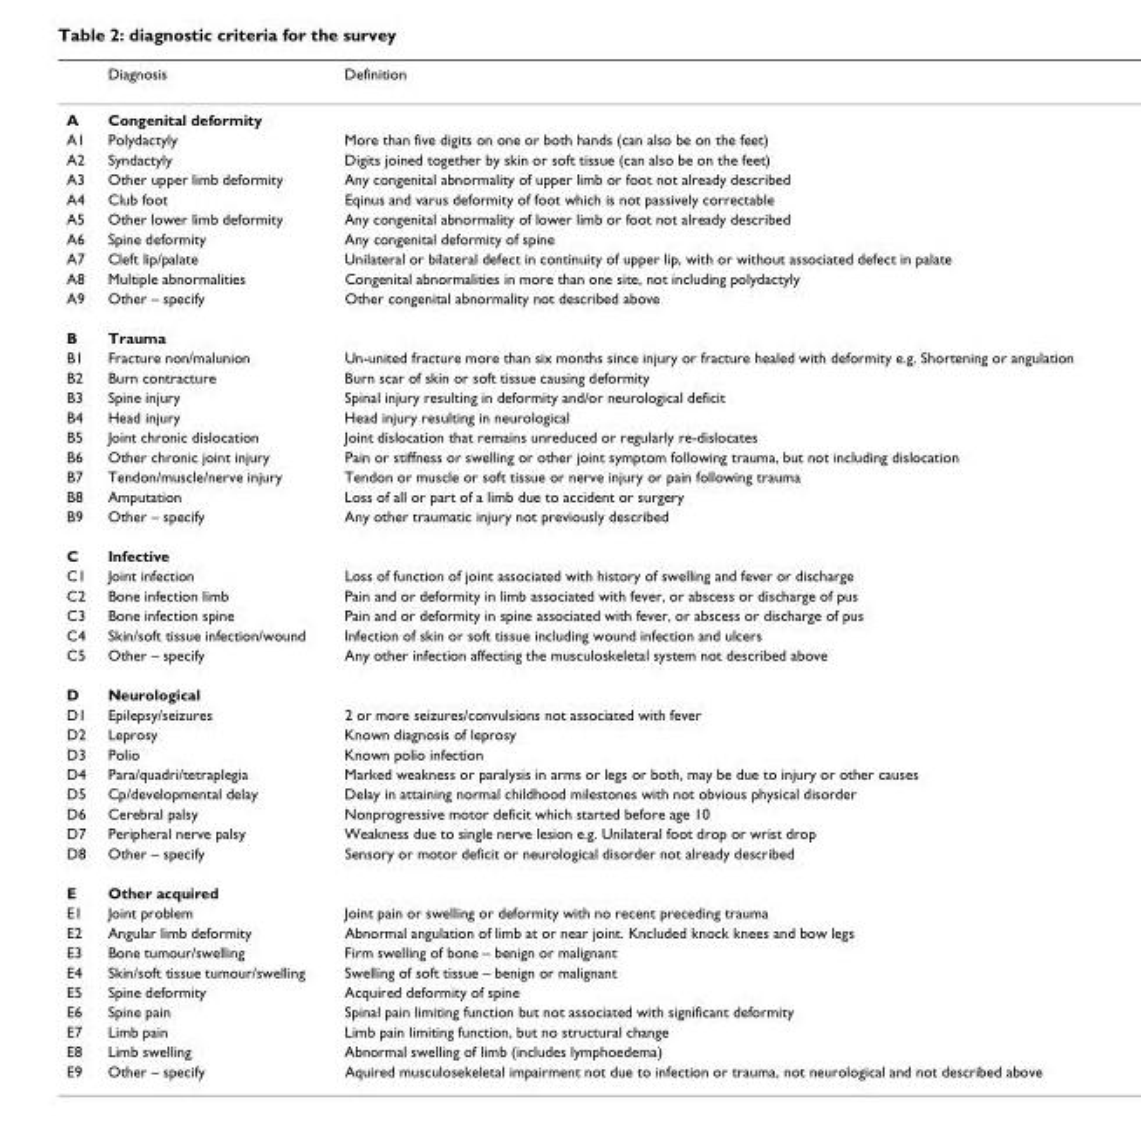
<table><thead><tr><td></td><td>Diagnosis</td><td>Definition</td></tr></thead><tbody><tr><td>A</td><td>Congenital deformity</td><td></td></tr><tr><td>A1</td><td>Polydactyly</td><td>More than five digits on one or both hands (can also be on the feet)</td></tr><tr><td>A2</td><td>Syndactyly</td><td>Digits joined together by skin or soft tissue (can also be on the feet)</td></tr><tr><td>A3</td><td>Other upper limb deformity</td><td>Any congenital abnormality of upper limb or foot not already described</td></tr><tr><td>A4</td><td>Club foot</td><td>Eqinus and varus deformity of foot which is not passively correctable</td></tr><tr><td>A5</td><td>Other lower limb deformity</td><td>Any congenital abnormality of lower limb or foot not already described</td></tr><tr><td>A6</td><td>Spine deformity</td><td>Any congenital deformity of spine</td></tr><tr><td>A7</td><td>Cleft lip/palate</td><td>Unilateral or bilateral defect in continuity of upper lip, with or without associated defect in palate</td></tr><tr><td>A8</td><td>Multiple abnormalities</td><td>Congenital abnormalities in more than one site, not including polydactyly</td></tr><tr><td>A9</td><td>Other – specify</td><td>Other congenital abnormality not described above</td></tr><tr><td>B</td><td>Trauma</td><td></td></tr><tr><td>B1</td><td>Fracture non/malunion</td><td>Un-united fracture more than six months since injury or fracture healed with deformity e.g. Shortening or angulation</td></tr><tr><td>B2</td><td>Burn contracture</td><td>Burn scar of skin or soft tissue causing deformity</td></tr><tr><td>B3</td><td>Spine injury</td><td>Spinal injury resulting in deformity and/or neurological deficit</td></tr><tr><td>B4</td><td>Head injury</td><td>Head injury resulting in neurological</td></tr><tr><td>B5</td><td>Joint chronic dislocation</td><td>Joint dislocation that remains unreduced or regularly re-dislocates</td></tr><tr><td>B6</td><td>Other chronic joint injury</td><td>Pain or stiffness or swelling or other joint symptom following trauma, but not including dislocation</td></tr><tr><td>B7</td><td>Tendon/muscle/nerve injury</td><td>Tendon or muscle or soft tissue or nerve injury or pain following trauma</td></tr><tr><td>B8</td><td>Amputation</td><td>Loss of all or part of a limb due to accident or surgery</td></tr><tr><td>B9</td><td>Other – specify</td><td>Any other traumatic injury not previously described</td></tr><tr><td>C</td><td>Infective</td><td></td></tr><tr><td>C1</td><td>Joint infection</td><td>Loss of function of joint associated with history of swelling and fever or discharge</td></tr><tr><td>C2</td><td>Bone infection limb</td><td>Pain and or deformity in limb associated with fever, or abscess or discharge of pus</td></tr><tr><td>C3</td><td>Bone infection spine</td><td>Pain and or deformity in spine associated with fever, or abscess or discharge of pus</td></tr><tr><td>C4</td><td>Skin/soft tissue infection/wound</td><td>Infection of skin or soft tissue including wound infection and ulcers</td></tr><tr><td>C5</td><td>Other – specify</td><td>Any other infection affecting the musculoskeletal system not described above</td></tr><tr><td>D</td><td>Neurological</td><td></td></tr><tr><td>D1</td><td>Epilepsy/seizures</td><td>2 or more seizures/convulsions not associated with fever</td></tr><tr><td>D2</td><td>Leprosy</td><td>Known diagnosis of leprosy</td></tr><tr><td>D3</td><td>Polio</td><td>Known polio infection</td></tr><tr><td>D4</td><td>Para/quadri/tetraplegia</td><td>Marked weakness or paralysis in arms or legs or both, may be due to injury or other causes</td></tr><tr><td>D5</td><td>Cp/developmental delay</td><td>Delay in attaining normal childhood milestones with not obvious physical disorder</td></tr><tr><td>D6</td><td>Cerebral palsy</td><td>Nonprogressive motor deficit which started before age 10</td></tr><tr><td>D7</td><td>Peripheral nerve palsy</td><td>Weakness due to single nerve lesion e.g. Unilateral foot drop or wrist drop</td></tr><tr><td>D8</td><td>Other – specify</td><td>Sensory or motor deficit or neurological disorder not already described</td></tr><tr><td>E</td><td>Other acquired</td><td></td></tr><tr><td>E1</td><td>Joint problem</td><td>Joint pain or swelling or deformity with no recent preceding trauma</td></tr><tr><td>E2</td><td>Angular limb deformity</td><td>Abnormal angulation of limb at or near joint. Kncluded knock knees and bow legs</td></tr><tr><td>E3</td><td>Bone tumour/swelling</td><td>Firm swelling of bone – benign or malignant</td></tr><tr><td>E4</td><td>Skin/soft tissue tumour/swelling</td><td>Swelling of soft tissue – benign or malignant</td></tr><tr><td>E5</td><td>Spine deformity</td><td>Acquired deformity of spine</td></tr><tr><td>E6</td><td>Spine pain</td><td>Spinal pain limiting function but not associated with significant deformity</td></tr><tr><td>E7</td><td>Limb pain</td><td>Limb pain limiting function, but no structural change</td></tr><tr><td>E8</td><td>Limb swelling</td><td>Abnormal swelling of limb (includes lymphoedema)</td></tr><tr><td>E9</td><td>Other – specify</td><td>Aquired musculosekeletal impairment not due to infection or trauma, not neurological and not described above</td></tr></tbody></table>